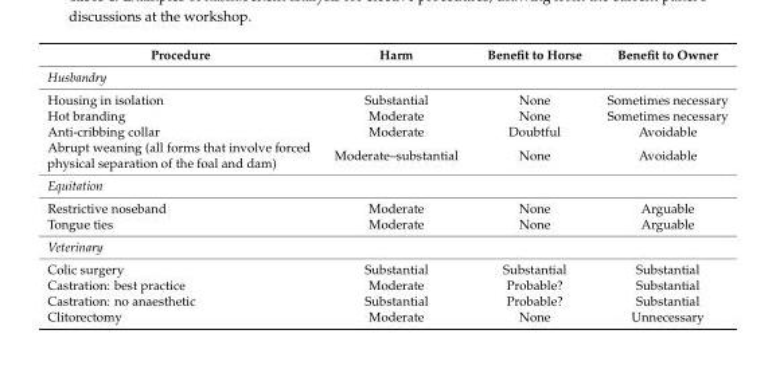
<table><thead><tr><td>Procedure</td><td>Harm</td><td>Benefit to Horse</td><td>Benefit to Owner</td></tr></thead><tbody><tr><td colspan="4">Husbandry</td></tr><tr><td>Housing in isolation</td><td>Substantial</td><td>None</td><td>Sometimes necessary</td></tr><tr><td>Hot branding</td><td>Moderate</td><td>None</td><td>Sometimes necessary</td></tr><tr><td>Anti-cribbing collar</td><td>Moderate</td><td>Doubtful</td><td>Avoidable</td></tr><tr><td>Abrupt weaning (all forms that involve forced physical separation of the foal and dam)</td><td>Moderate–substantial</td><td>None</td><td>Avoidable</td></tr><tr><td colspan="4">Equitation</td></tr><tr><td>Restrictive noseband</td><td>Moderate</td><td>None</td><td>Arguable</td></tr><tr><td>Tongue ties</td><td>Moderate</td><td>None</td><td>Arguable</td></tr><tr><td colspan="4">Veterinary</td></tr><tr><td>Colic surgery</td><td>Substantial</td><td>Substantial</td><td>Substantial</td></tr><tr><td>Castration: best practice</td><td>Moderate</td><td>Probable?</td><td>Substantial</td></tr><tr><td>Castration: no anaesthetic</td><td>Substantial</td><td>Probable?</td><td>Substantial</td></tr><tr><td>Clitorectomy</td><td>Moderate</td><td>None</td><td>Unnecessary</td></tr></tbody></table>